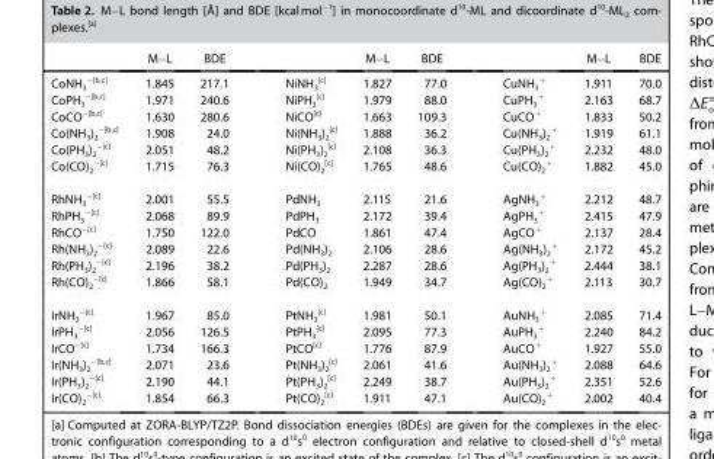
<table><thead><tr><td></td><td>M–L</td><td>BDE</td><td></td><td>M–L</td><td>BDE</td><td></td><td>M–L</td><td>BDE</td></tr></thead><tbody><tr><td>CoNH<sub>3</sub> <sup>−[b,c]</sup></td><td>1.845</td><td>217.1</td><td>NiNH<sub>3</sub> <sup>[c]</sup></td><td>1.827</td><td>77.0</td><td>CuNH<sub>3</sub> <sup>+</sup></td><td>1.911</td><td>70.0</td></tr><tr><td>CoPH<sub>3</sub> <sup>−[b,c]</sup></td><td>1.971</td><td>240.6</td><td>NiPH<sub>3</sub> <sup>[c]</sup></td><td>1.979</td><td>88.0</td><td>CuPH<sub>3</sub> <sup>+</sup></td><td>2.163</td><td>68.7</td></tr><tr><td>CoCO<sup>−[b,c]</sup></td><td>1.630</td><td>280.6</td><td>NiCO<sup>[c]</sup></td><td>1.663</td><td>109.3</td><td>CuCO<sup>+</sup></td><td>1.833</td><td>50.2</td></tr><tr><td>Co(NH<sub>3</sub>)<sub>2</sub> <sup>−[b,c]</sup></td><td>1.908</td><td>24.0</td><td>Ni(NH<sub>3</sub>)<sub>2</sub> <sup>[c]</sup></td><td>1.888</td><td>36.2</td><td>Cu(NH<sub>3</sub>)<sub>2</sub> <sup>+</sup></td><td>1.919</td><td>61.1</td></tr><tr><td>Co(PH<sub>3</sub>)<sub>2</sub> <sup>−[c]</sup></td><td>2.051</td><td>48.2</td><td>Ni(PH<sub>3</sub>)<sub>2</sub> <sup>[c]</sup></td><td>2.108</td><td>36.3</td><td>Cu(PH<sub>3</sub>)<sub>2</sub> <sup>+</sup></td><td>2.232</td><td>48.0</td></tr><tr><td>Co(CO)<sub>2</sub> <sup>−[c]</sup></td><td>1.715</td><td>76.3</td><td>Ni(CO)<sub>2</sub> <sup>[c]</sup></td><td>1.765</td><td>48.6</td><td>Cu(CO)<sub>2</sub> <sup>+</sup></td><td>1.882</td><td>45.0</td></tr><tr><td>RhNH<sub>3</sub> <sup>−[c]</sup></td><td>2.001</td><td>55.5</td><td>PdNH<sub>3</sub></td><td>2.115</td><td>21.6</td><td>AgNH<sub>3</sub> <sup>+</sup></td><td>2.212</td><td>48.7</td></tr><tr><td>RhPH<sub>3</sub> <sup>−[c]</sup></td><td>2.068</td><td>89.9</td><td>PdPH<sub>3</sub></td><td>2.172</td><td>39.4</td><td>AgPH<sub>3</sub> <sup>+</sup></td><td>2.415</td><td>47.9</td></tr><tr><td>RhCO<sup>−[c]</sup></td><td>1.750</td><td>122.0</td><td>PdCO</td><td>1.861</td><td>47.4</td><td>AgCO<sup>+</sup></td><td>2.137</td><td>28.4</td></tr><tr><td>Rh(NH<sub>3</sub>)<sub>2</sub> <sup>−[c]</sup></td><td>2.089</td><td>22.6</td><td>Pd(NH<sub>3</sub>)<sub>2</sub></td><td>2.106</td><td>28.6</td><td>Ag(NH<sub>3</sub>)<sub>2</sub> <sup>+</sup></td><td>2.172</td><td>45.2</td></tr><tr><td>Rh(PH<sub>3</sub>)<sub>2</sub> <sup>−[c]</sup></td><td>2.196</td><td>38.2</td><td>Pd(PH<sub>3</sub>)<sub>2</sub></td><td>2.287</td><td>28.6</td><td>Ag(PH<sub>3</sub>)<sub>2</sub> <sup>+</sup></td><td>2.444</td><td>38.1</td></tr><tr><td>Rh(CO)<sub>2</sub> <sup>−[c]</sup></td><td>1.866</td><td>58.1</td><td>Pd(CO)<sub>2</sub></td><td>1.949</td><td>34.7</td><td>Ag(CO)<sub>2</sub> <sup>+</sup></td><td>2.113</td><td>30.7</td></tr><tr><td>IrNH<sub>3</sub> <sup>−[c]</sup></td><td>1.967</td><td>85.0</td><td>PtNH<sub>3</sub> <sup>[c]</sup></td><td>1.981</td><td>50.1</td><td>AuNH<sub>3</sub> <sup>+</sup></td><td>2.085</td><td>71.4</td></tr><tr><td>IrPH<sub>3</sub> <sup>−[c]</sup></td><td>2.056</td><td>126.5</td><td>PtPH<sub>3</sub> <sup>[c]</sup></td><td>2.095</td><td>77.3</td><td>AuPH<sub>3</sub> <sup>+</sup></td><td>2.240</td><td>84.2</td></tr><tr><td>IrCO<sup>−[c]</sup></td><td>1.734</td><td>166.3</td><td>PtCO<sup>[c]</sup></td><td>1.776</td><td>87.9</td><td>AuCO<sup>+</sup></td><td>1.927</td><td>55.0</td></tr><tr><td>Ir(NH<sub>3</sub>)<sub>2</sub> <sup>−[b,c]</sup></td><td>2.071</td><td>23.6</td><td>Pt(NH<sub>3</sub>)<sub>2</sub> <sup>[c]</sup></td><td>2.061</td><td>41.6</td><td>Au(NH<sub>3</sub>)<sub>2</sub> <sup>+</sup></td><td>2.088</td><td>64.6</td></tr><tr><td>Ir(PH<sub>3</sub>)<sub>2</sub> <sup>−[c]</sup></td><td>2.190</td><td>44.1</td><td>Pt(PH<sub>3</sub>)<sub>2</sub> <sup>[c]</sup></td><td>2.249</td><td>38.7</td><td>Au(PH<sub>3</sub>)<sub>2</sub> <sup>+</sup></td><td>2.351</td><td>52.6</td></tr><tr><td>Ir(CO)<sub>2</sub> <sup>−[c]</sup></td><td>1.854</td><td>66.3</td><td>Pt(CO)<sub>2</sub> <sup>[c]</sup></td><td>1.911</td><td>47.1</td><td>Au(CO)<sub>2</sub> <sup>+</sup></td><td>2.002</td><td>40.4</td></tr></tbody></table>